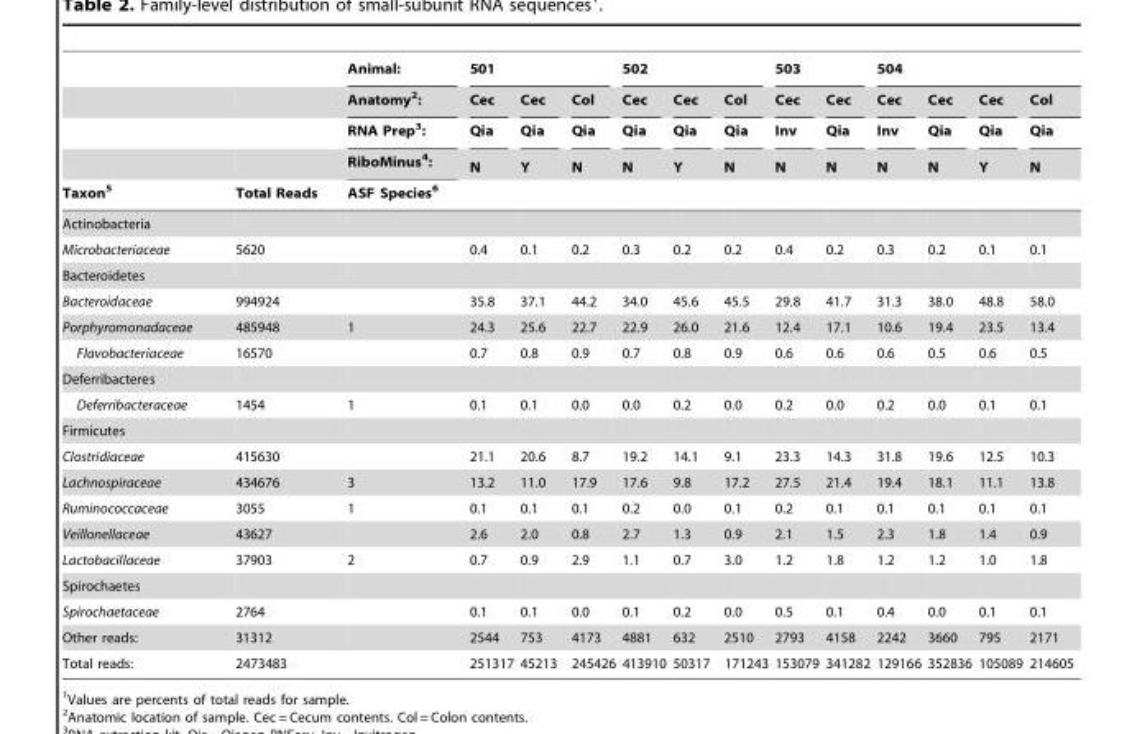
<table><thead><tr><td rowspan="5">Taxon<sup>5</sup></td><td rowspan="5">Total Reads</td><td rowspan="5">Animal: Anatomy2: RNA Prep3: RiboMinus4: ASF Species6</td><td colspan="3">501</td><td colspan="3">502</td><td colspan="2">503</td><td colspan="4">504</td></tr><tr><td rowspan="4">Cec Qia N</td><td rowspan="4">Cec Qia Y</td><td rowspan="4">Col Qia N</td><td rowspan="4">Cec Qia N</td><td rowspan="4">Cec Qia Y</td><td rowspan="4">Col Qia N</td><td rowspan="4">Cec Inv N</td><td rowspan="4">Cec Qia N</td><td rowspan="4">Cec Inv N</td><td rowspan="4">Cec Qia N</td><td rowspan="4">Cec Qia Y</td><td rowspan="4">Col Qia N</td></tr><tr></tr><tr></tr><tr></tr></thead><tbody><tr><td colspan="15">Actinobacteria</td></tr><tr><td>Microbacteriaceae</td><td>5620</td><td></td><td>0.4</td><td>0.1</td><td>0.2</td><td>0.3</td><td>0.2</td><td>0.2</td><td>0.4</td><td>0.2</td><td>0.3</td><td>0.2</td><td>0.1</td><td>0.1</td></tr><tr><td colspan="15">Bacteroidetes</td></tr><tr><td>Bacteroidaceae</td><td>994924</td><td></td><td>35.8</td><td>37.1</td><td>44.2</td><td>34.0</td><td>45.6</td><td>45.5</td><td>29.8</td><td>41.7</td><td>31.3</td><td>38.0</td><td>48.8</td><td>58.0</td></tr><tr><td>Porphyromonadaceae</td><td>485948</td><td>1</td><td>24.3</td><td>25.6</td><td>22.7</td><td>22.9</td><td>26.0</td><td>21.6</td><td>12.4</td><td>17.1</td><td>10.6</td><td>19.4</td><td>23.5</td><td>13.4</td></tr><tr><td>Flavobacteriaceae</td><td>16570</td><td></td><td>0.7</td><td>0.8</td><td>0.9</td><td>0.7</td><td>0.8</td><td>0.9</td><td>0.6</td><td>0.6</td><td>0.6</td><td>0.5</td><td>0.6</td><td>0.5</td></tr><tr><td colspan="15">Deferribacteres</td></tr><tr><td>Deferribacteraceae</td><td>1454</td><td>1</td><td>0.1</td><td>0.1</td><td>0.0</td><td>0.0</td><td>0.2</td><td>0.0</td><td>0.2</td><td>0.0</td><td>0.2</td><td>0.0</td><td>0.1</td><td>0.1</td></tr><tr><td colspan="15">Firmicutes</td></tr><tr><td>Clostridiaceae</td><td>415630</td><td></td><td>21.1</td><td>20.6</td><td>8.7</td><td>19.2</td><td>14.1</td><td>9.1</td><td>23.3</td><td>14.3</td><td>31.8</td><td>19.6</td><td>12.5</td><td>10.3</td></tr><tr><td>Lachnospiraceae</td><td>434676</td><td>3</td><td>13.2</td><td>11.0</td><td>17.9</td><td>17.6</td><td>9.8</td><td>17.2</td><td>27.5</td><td>21.4</td><td>19.4</td><td>18.1</td><td>11.1</td><td>13.8</td></tr><tr><td>Ruminococcaceae</td><td>3055</td><td>1</td><td>0.1</td><td>0.1</td><td>0.1</td><td>0.2</td><td>0.0</td><td>0.1</td><td>0.2</td><td>0.1</td><td>0.1</td><td>0.1</td><td>0.1</td><td>0.1</td></tr><tr><td>Veillonellaceae</td><td>43627</td><td></td><td>2.6</td><td>2.0</td><td>0.8</td><td>2.7</td><td>1.3</td><td>0.9</td><td>2.1</td><td>1.5</td><td>2.3</td><td>1.8</td><td>1.4</td><td>0.9</td></tr><tr><td>Lactobacillaceae</td><td>37903</td><td>2</td><td>0.7</td><td>0.9</td><td>2.9</td><td>1.1</td><td>0.7</td><td>3.0</td><td>1.2</td><td>1.8</td><td>1.2</td><td>1.2</td><td>1.0</td><td>1.8</td></tr><tr><td colspan="15">Spirochaetes</td></tr><tr><td>Spirochaetaceae</td><td>2764</td><td></td><td>0.1</td><td>0.1</td><td>0.0</td><td>0.1</td><td>0.2</td><td>0.0</td><td>0.5</td><td>0.1</td><td>0.4</td><td>0.0</td><td>0.1</td><td>0.1</td></tr><tr><td>Other reads:</td><td>31312</td><td></td><td>2544</td><td>753</td><td>4173</td><td>4881</td><td>632</td><td>2510</td><td>2793</td><td>4158</td><td>2242</td><td>3660</td><td>795</td><td>2171</td></tr><tr><td>Total reads:</td><td>2473483</td><td></td><td>251317</td><td>45213</td><td>245426</td><td>413910</td><td>50317</td><td>171243</td><td>153079</td><td>341282</td><td>129166</td><td>352836</td><td>105089</td><td>214605</td></tr></tbody></table>